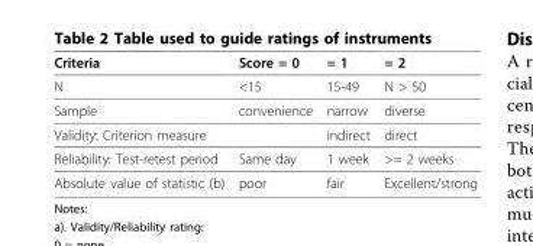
<table><thead><tr><td>Criteria</td><td>Score = 0</td><td>= 1</td><td>= 2</td></tr></thead><tbody><tr><td>N</td><td>&lt;15</td><td>15-49</td><td>N &gt; 50</td></tr><tr><td>Sample</td><td>convenience</td><td>narrow</td><td>diverse</td></tr><tr><td>Validity: Criterion measure</td><td></td><td>indirect</td><td>direct</td></tr><tr><td>Reliability: Test-retest period</td><td>Same day</td><td>1 week</td><td>&gt;= 2 weeks</td></tr><tr><td>Absolute value of statistic (b)</td><td>poor</td><td>fair</td><td>Excellent/strong</td></tr></tbody></table>